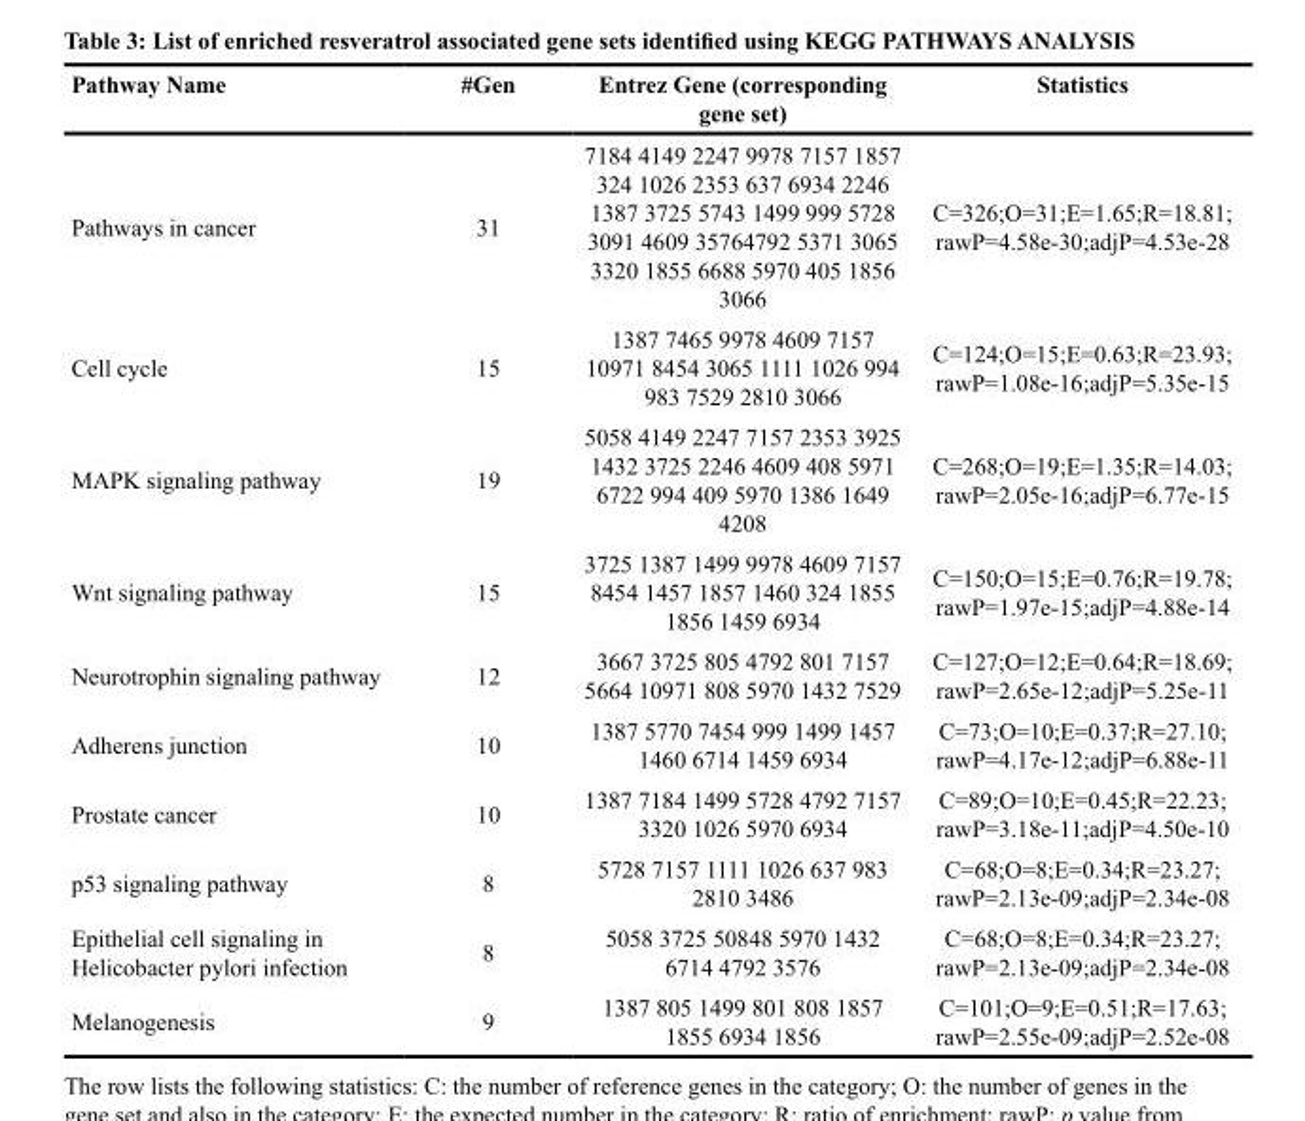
<table><thead><tr><td>Pathway Name</td><td>#Gen</td><td>Entrez Gene (corresponding gene set)</td><td>Statistics</td></tr></thead><tbody><tr><td>Pathways in cancer</td><td>31</td><td>7184 4149 2247 9978 7157 1857 324 1026 2353 637 6934 2246 1387 3725 5743 1499 999 5728 3091 4609 35764792 5371 3065 3320 1855 6688 5970 405 1856 3066</td><td>C=326;O=31;E=1.65;R=18.81; rawP=4.58e-30;adjP=4.53e-28</td></tr><tr><td>Cell cycle</td><td>15</td><td>1387 7465 9978 4609 7157 10971 8454 3065 1111 1026 994 983 7529 2810 3066</td><td>C=124;O=15;E=0.63;R=23.93; rawP=1.08e-16;adjP=5.35e-15</td></tr><tr><td>MAPK signaling pathway</td><td>19</td><td>5058 4149 2247 7157 2353 3925 1432 3725 2246 4609 408 5971 6722 994 409 5970 1386 1649 4208</td><td>C=268;O=19;E=1.35;R=14.03; rawP=2.05e-16;adjP=6.77e-15</td></tr><tr><td>Wnt signaling pathway</td><td>15</td><td>3725 1387 1499 9978 4609 7157 8454 1457 1857 1460 324 1855 1856 1459 6934</td><td>C=150;O=15;E=0.76;R=19.78; rawP=1.97e-15;adjP=4.88e-14</td></tr><tr><td>Neurotrophin signaling pathway</td><td>12</td><td>3667 3725 805 4792 801 7157 5664 10971 808 5970 1432 7529</td><td>C=127;O=12;E=0.64;R=18.69; rawP=2.65e-12;adjP=5.25e-11</td></tr><tr><td>Adherens junction</td><td>10</td><td>1387 5770 7454 999 1499 1457 1460 6714 1459 6934</td><td>C=73;O=10;E=0.37;R=27.10; rawP=4.17e-12;adjP=6.88e-11</td></tr><tr><td>Prostate cancer</td><td>10</td><td>1387 7184 1499 5728 4792 7157 3320 1026 5970 6934</td><td>C=89;O=10;E=0.45;R=22.23; rawP=3.18e-11;adjP=4.50e-10</td></tr><tr><td>p53 signaling pathway</td><td>8</td><td>5728 7157 1111 1026 637 983 2810 3486</td><td>C=68;O=8;E=0.34;R=23.27; rawP=2.13e-09;adjP=2.34e-08</td></tr><tr><td>Epithelial cell signaling in Helicobacter pylori infection</td><td>8</td><td>5058 3725 50848 5970 1432 6714 4792 3576</td><td>C=68;O=8;E=0.34;R=23.27; rawP=2.13e-09;adjP=2.34e-08</td></tr><tr><td>Melanogenesis</td><td>9</td><td>1387 805 1499 801 808 1857 1855 6934 1856</td><td>C=101;O=9;E=0.51;R=17.63; rawP=2.55e-09;adjP=2.52e-08</td></tr></tbody></table>